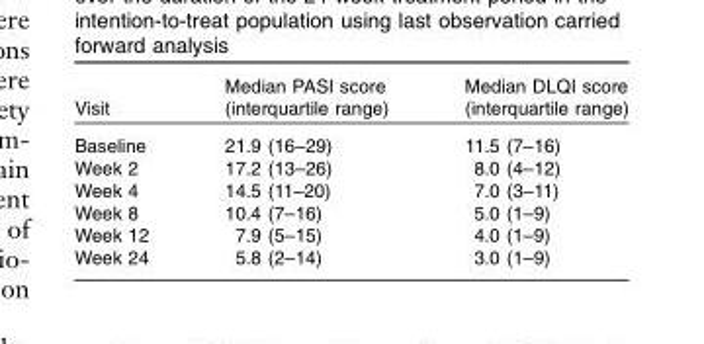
<table><thead><tr><td>Visit</td><td>Median PASI score (interquartile range)</td><td>Median DLQI score (interquartile range)</td></tr></thead><tbody><tr><td>Baseline</td><td>21.9 (16–29)</td><td>11.5 (7–16)</td></tr><tr><td>Week 2</td><td>17.2 (13–26)</td><td>8.0 (4–12)</td></tr><tr><td>Week 4</td><td>14.5 (11–20)</td><td>7.0 (3–11)</td></tr><tr><td>Week 8</td><td>10.4 (7–16)</td><td>5.0 (1–9)</td></tr><tr><td>Week 12</td><td>7.9 (5–15)</td><td>4.0 (1–9)</td></tr><tr><td>Week 24</td><td>5.8 (2–14)</td><td>3.0 (1–9)</td></tr></tbody></table>